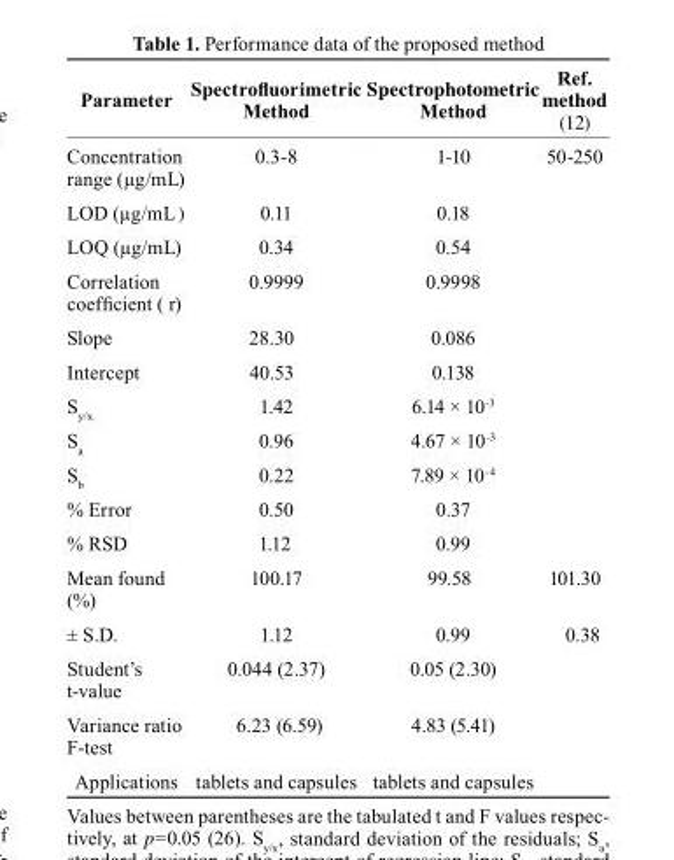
<table><thead><tr><td>Parameter</td><td>Spectrofluorimetric Method</td><td>spectrophotometric Method</td><td>ref. method (12)</td></tr></thead><tbody><tr><td>Concentration range (µg/mL)</td><td>0.3-8</td><td>1-10</td><td>50-250</td></tr><tr><td>LOD (µg/mL )</td><td>0.11</td><td>0.18</td><td></td></tr><tr><td>LOQ (µg/mL)</td><td>0.34</td><td>0.54</td><td></td></tr><tr><td>Correlation coefficient ( r)</td><td>0.9999</td><td>0.9998</td><td></td></tr><tr><td>Slope</td><td>28.30</td><td>0.086</td><td></td></tr><tr><td>Intercept</td><td>40.53</td><td>0.138</td><td></td></tr><tr><td>S<sub>y/x</sub></td><td>1.42</td><td>6.14 × 10<sup>-3</sup></td><td></td></tr><tr><td>S<sub>a</sub></td><td>0.96</td><td>4.67 × 10<sup>-3</sup></td><td></td></tr><tr><td>S<sub>b</sub></td><td>0.22</td><td>7.89 × 10<sup>-4</sup></td><td></td></tr><tr><td>% Error</td><td>0.50</td><td>0.37</td><td></td></tr><tr><td>% RSD</td><td>1.12</td><td>0.99</td><td></td></tr><tr><td>Mean found (%)</td><td>100.17</td><td>99.58</td><td>101.30</td></tr><tr><td>± S.D.</td><td>1.12</td><td>0.99</td><td>0.38</td></tr><tr><td>Student’s t-value</td><td>0.044 (2.37)</td><td>0.05 (2.30)</td><td></td></tr><tr><td>Variance ratio F-test</td><td>6.23 (6.59)</td><td>4.83 (5.41)</td><td></td></tr><tr><td>Applications</td><td>tablets and capsules</td><td>tablets and capsules</td><td></td></tr></tbody></table>